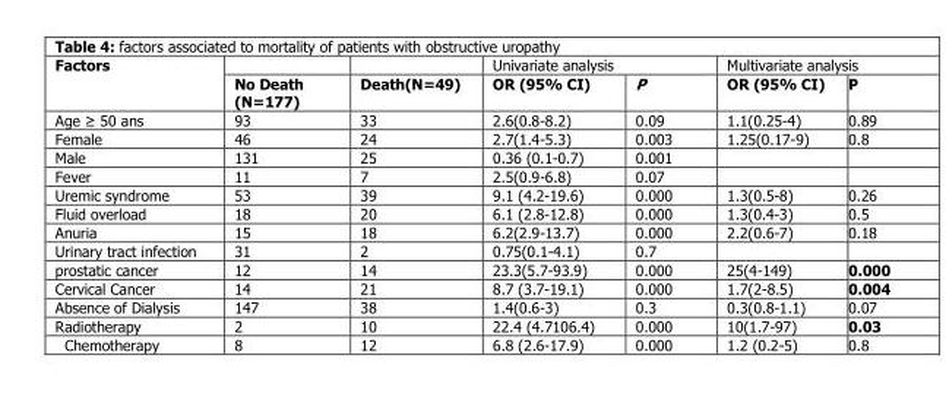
<table><thead><tr><td rowspan="2">Factors</td><td rowspan="2">No Death (N=177)</td><td rowspan="2">Death(N=49)</td><td colspan="2">Univariate analysis</td><td colspan="2">Multivariate analysis</td></tr><tr><td>OR (95% CI)</td><td>P</td><td>OR (95% CI)</td><td>P</td></tr></thead><tbody><tr><td>Age ≥ 50 ans</td><td>93</td><td>33</td><td>2.6(0.8-8.2)</td><td>0.09</td><td>1.1(0.25-4)</td><td>0.89</td></tr><tr><td>Female</td><td>46</td><td>24</td><td>2.7(1.4-5.3)</td><td>0.003</td><td>1.25(0.17-9)</td><td>0.8</td></tr><tr><td>Male</td><td>131</td><td>25</td><td>0.36 (0.1-0.7)</td><td>0.001</td><td></td><td></td></tr><tr><td>Fever</td><td>11</td><td>7</td><td>2.5(0.9-6.8)</td><td>0.07</td><td></td><td></td></tr><tr><td>Uremic syndrome</td><td>53</td><td>39</td><td>9.1 (4.2-19.6)</td><td>0.000</td><td>1.3(0.5-8)</td><td>0.26</td></tr><tr><td>Fluid overload</td><td>18</td><td>20</td><td>6.1 (2.8-12.8)</td><td>0.000</td><td>1.3(0.4-3)</td><td>0.5</td></tr><tr><td>Anuria</td><td>15</td><td>18</td><td>6.2(2.9-13.7)</td><td>0.000</td><td>2.2(0.6-7)</td><td>0.18</td></tr><tr><td>Urinary tract infection</td><td>31</td><td>2</td><td>0.75(0.1-4.1)</td><td>0.7</td><td></td><td></td></tr><tr><td>prostatic cancer</td><td>12</td><td>14</td><td>23.3(5.7-93.9)</td><td>0.000</td><td>25(4-149)</td><td>0.000</td></tr><tr><td>Cervical Cancer</td><td>14</td><td>21</td><td>8.7 (3.7-19.1)</td><td>0.000</td><td>1.7(2-8.5)</td><td>0.004</td></tr><tr><td>Absence of Dialysis</td><td>147</td><td>38</td><td>1.4(0.6-3)</td><td>0.3</td><td>0.3(0.8-1.1)</td><td>0.07</td></tr><tr><td>Radiotherapy</td><td>2</td><td>10</td><td>22.4 (4.7106.4)</td><td>0.000</td><td>10(1.7-97)</td><td>0.03</td></tr><tr><td>Chemotherapy</td><td>8</td><td>12</td><td>6.8 (2.6-17.9)</td><td>0.000</td><td>1.2 (0.2-5)</td><td>0.8</td></tr></tbody></table>